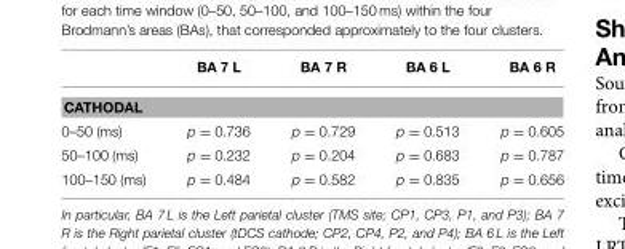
<table><thead><tr><td></td><td>BA 7 L</td><td>BA 7 R</td><td>BA 6 L</td><td>BA 6 R</td></tr></thead><tbody><tr><td colspan="5">CATHODAL</td></tr><tr><td>0–50 (ms)</td><td>p = 0.736</td><td>p = 0.729</td><td>p = 0.513</td><td>p = 0.605</td></tr><tr><td>50–100 (ms)</td><td>p = 0.232</td><td>p = 0.204</td><td>p = 0.683</td><td>p = 0.787</td></tr><tr><td>100–150 (ms)</td><td>p = 0.484</td><td>p = 0.582</td><td>p = 0.835</td><td>p = 0.656</td></tr></tbody></table>